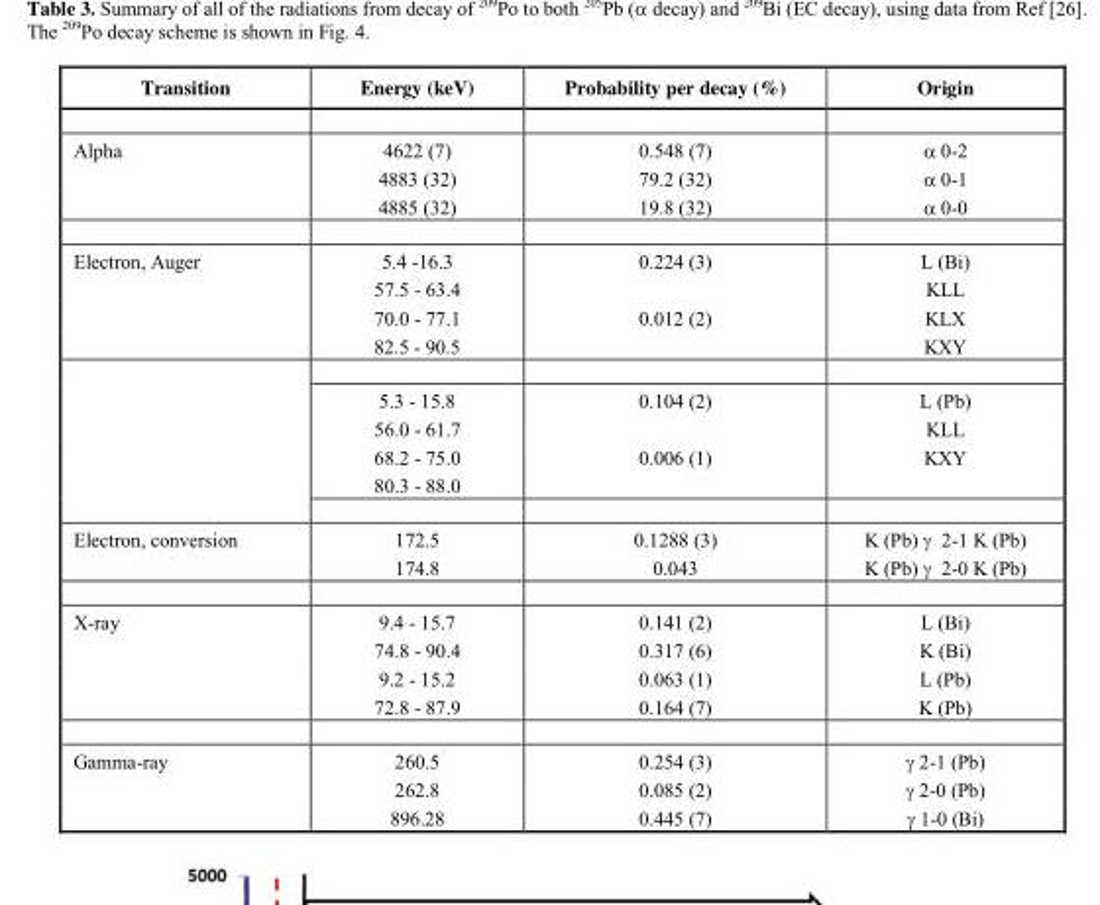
<table><thead><tr><td>Transition</td><td>Energy (keV)</td><td>Probability per decay (%)</td><td>Origin</td></tr></thead><tbody><tr><td rowspan="3">Alpha</td><td>4622 (7)</td><td>0.548 (7)</td><td>α 0-2</td></tr><tr><td>4883 (32)</td><td>79.2 (32)</td><td>α 0-1</td></tr><tr><td>4885 (32)</td><td>19.8 (32)</td><td>α 0-0</td></tr><tr><td rowspan="8">Electron, Auger</td><td>5.4 -16.3</td><td>0.224 (3)</td><td>L (Bi)</td></tr><tr><td>57.5 - 63.4</td><td></td><td>KLL</td></tr><tr><td>70.0 - 77.1</td><td>0.012 (2)</td><td>KLX</td></tr><tr><td>82.5 - 90.5</td><td></td><td>KXY</td></tr><tr><td>5.3 - 15.8</td><td>0.104 (2)</td><td>L (Pb)</td></tr><tr><td>56.0 - 61.7</td><td></td><td>KLL</td></tr><tr><td>68.2 - 75.0</td><td>0.006 (1)</td><td>KXY</td></tr><tr><td>80.3 - 88.0</td><td></td><td></td></tr><tr><td rowspan="2">Electron, conversion</td><td>172.5</td><td>0.1288 (3)</td><td>K (Pb) γ 2-1 K (Pb)</td></tr><tr><td>174.8</td><td>0.043</td><td>K (Pb) γ 2-0 K (Pb)</td></tr><tr><td rowspan="4">X-ray</td><td>9.4 - 15.7</td><td>0.141 (2)</td><td>L (Bi)</td></tr><tr><td>74.8 - 90.4</td><td>0.317 (6)</td><td>K (Bi)</td></tr><tr><td>9.2 - 15.2</td><td>0.063 (1)</td><td>L (Pb)</td></tr><tr><td>72.8 - 87.9</td><td>0.164 (7)</td><td>K (Pb)</td></tr><tr><td rowspan="3">Gamma-ray</td><td>260.5</td><td>0.254 (3)</td><td>γ 2-1 (Pb)</td></tr><tr><td>262.8</td><td>0.085 (2)</td><td>γ 2-0 (Pb)</td></tr><tr><td>896.28</td><td>0.445 (7)</td><td>γ 1-0 (Bi)</td></tr></tbody></table>